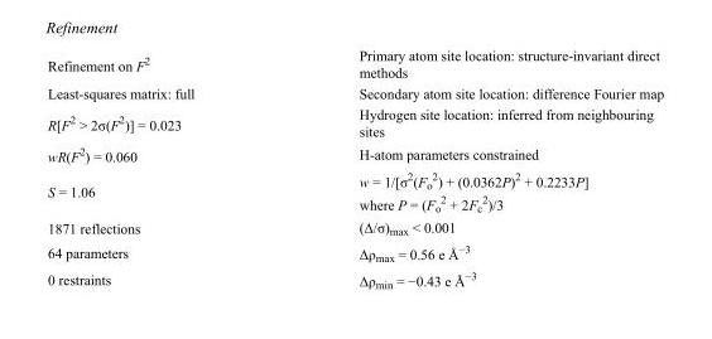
<table><tbody><tr><td>Refinement on F<sup>2</sup></td><td>Primary atom site location: structure-invariant direct methods</td></tr><tr><td>Least-squares matrix: full</td><td>Secondary atom site location: difference Fourier map</td></tr><tr><td>R[F<sup>2</sup> &gt; 2σ(F<sup>2</sup>)] = 0.023</td><td>Hydrogen site location: inferred from neighbouring sites</td></tr><tr><td>wR(F<sup>2</sup>) = 0.060</td><td>H-atom parameters constrained</td></tr><tr><td>S = 1.06</td><td>w = 1/[σ<sup>2</sup>(F<sub>o</sub> <sup>2</sup>) + (0.0362P)<sup>2</sup> + 0.2233P] where P = (F<sub>o</sub> <sup>2</sup> + 2F<sub>c</sub> <sup>2</sup>)/3</td></tr><tr><td>1871 reflections</td><td>(Δ/σ)<sub>max</sub> &lt; 0.001</td></tr><tr><td>64 parameters</td><td>Δρ<sub>max</sub> = 0.56 e Å<sup>−3</sup></td></tr><tr><td>0 restraints</td><td>Δρ<sub>min</sub> = −0.43 e Å<sup>−3</sup></td></tr></tbody></table>